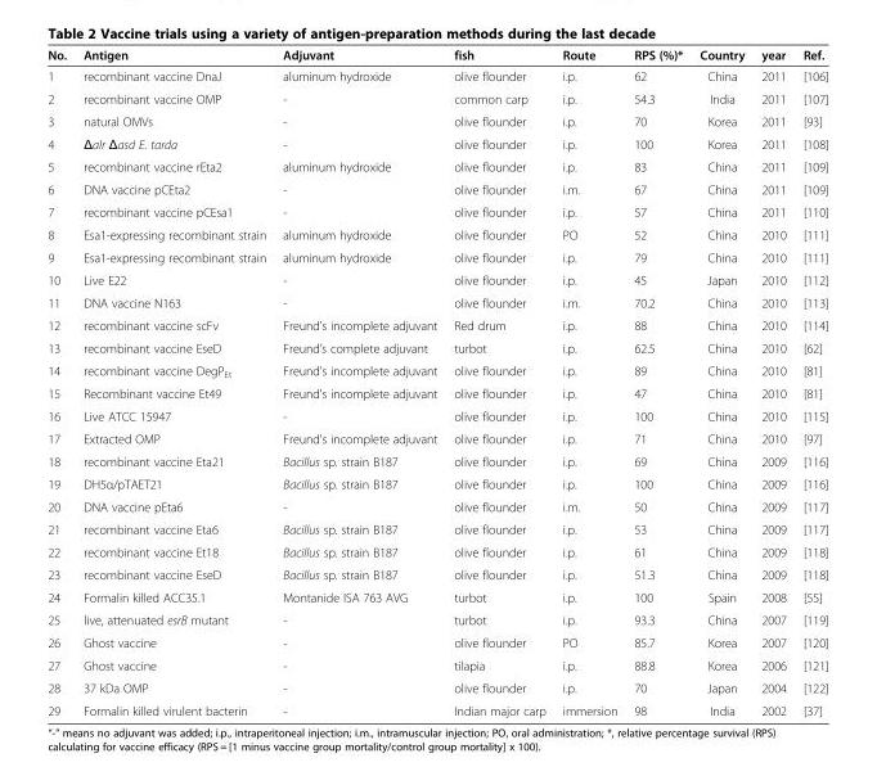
<table><thead><tr><td>No.</td><td>Antigen</td><td>Adjuvant</td><td>fish</td><td>Route</td><td>RPS (%)*</td><td>Country</td><td>year</td><td>Ref.</td></tr></thead><tbody><tr><td>1</td><td>recombinant vaccine DnaJ</td><td>aluminum hydroxide</td><td>olive flounder</td><td>i.p.</td><td>62</td><td>China</td><td>2011</td><td>[106]</td></tr><tr><td>2</td><td>recombinant vaccine OMP</td><td>-</td><td>common carp</td><td>i.p.</td><td>54.3</td><td>India</td><td>2011</td><td>[107]</td></tr><tr><td>3</td><td>natural OMVs</td><td>-</td><td>olive flounder</td><td>i.p.</td><td>70</td><td>Korea</td><td>2011</td><td>[93]</td></tr><tr><td>4</td><td>Δalr Δasd E. tarda</td><td>-</td><td>olive flounder</td><td>i.p.</td><td>100</td><td>Korea</td><td>2011</td><td>[108]</td></tr><tr><td>5</td><td>recombinant vaccine rEta2</td><td>aluminum hydroxide</td><td>olive flounder</td><td>i.p.</td><td>83</td><td>China</td><td>2011</td><td>[109]</td></tr><tr><td>6</td><td>DNA vaccine pCEta2</td><td>-</td><td>olive flounder</td><td>i.m.</td><td>67</td><td>China</td><td>2011</td><td>[109]</td></tr><tr><td>7</td><td>recombinant vaccine pCEsa1</td><td>-</td><td>olive flounder</td><td>i.p.</td><td>57</td><td>China</td><td>2011</td><td>[110]</td></tr><tr><td>8</td><td>Esa1-expressing recombinant strain</td><td>aluminum hydroxide</td><td>olive flounder</td><td>PO</td><td>52</td><td>China</td><td>2010</td><td>[111]</td></tr><tr><td>9</td><td>Esa1-expressing recombinant strain</td><td>aluminum hydroxide</td><td>olive flounder</td><td>i.p.</td><td>79</td><td>China</td><td>2010</td><td>[111]</td></tr><tr><td>10</td><td>Live E22</td><td>-</td><td>olive flounder</td><td>i.p.</td><td>45</td><td>Japan</td><td>2010</td><td>[112]</td></tr><tr><td>11</td><td>DNA vaccine N163</td><td>-</td><td>olive flounder</td><td>i.m.</td><td>70.2</td><td>China</td><td>2010</td><td>[113]</td></tr><tr><td>12</td><td>recombinant vaccine scFv</td><td>Freund&#x27;s incomplete adjuvant</td><td>Red drum</td><td>i.p.</td><td>88</td><td>China</td><td>2010</td><td>[114]</td></tr><tr><td>13</td><td>recombinant vaccine EseD</td><td>Freund’s complete adjuvant</td><td>turbot</td><td>i.p.</td><td>62.5</td><td>China</td><td>2010</td><td>[62]</td></tr><tr><td>14</td><td>recombinant vaccine DegP<sub>Et</sub></td><td>Freund&#x27;s incomplete adjuvant</td><td>olive flounder</td><td>i.p.</td><td>89</td><td>China</td><td>2010</td><td>[81]</td></tr><tr><td>15</td><td>Recombinant vaccine Et49</td><td>Freund&#x27;s incomplete adjuvant</td><td>olive flounder</td><td>i.p.</td><td>47</td><td>China</td><td>2010</td><td>[81]</td></tr><tr><td>16</td><td>Live ATCC 15947</td><td>-</td><td>olive flounder</td><td>i.p.</td><td>100</td><td>China</td><td>2010</td><td>[115]</td></tr><tr><td>17</td><td>Extracted OMP</td><td>Freund&#x27;s incomplete adjuvant</td><td>olive flounder</td><td>i.p.</td><td>71</td><td>China</td><td>2010</td><td>[97]</td></tr><tr><td>18</td><td>recombinant vaccine Eta21</td><td>Bacillus sp. strain B187</td><td>olive flounder</td><td>i.p.</td><td>69</td><td>China</td><td>2009</td><td>[116]</td></tr><tr><td>19</td><td>DH5α/pTAET21</td><td>Bacillus sp. strain B187</td><td>olive flounder</td><td>i.p.</td><td>100</td><td>China</td><td>2009</td><td>[116]</td></tr><tr><td>20</td><td>DNA vaccine pEta6</td><td>-</td><td>olive flounder</td><td>i.m.</td><td>50</td><td>China</td><td>2009</td><td>[117]</td></tr><tr><td>21</td><td>recombinant vaccine Eta6</td><td>Bacillus sp. strain B187</td><td>olive flounder</td><td>i.p.</td><td>53</td><td>China</td><td>2009</td><td>[117]</td></tr><tr><td>22</td><td>recombinant vaccine Et18</td><td>Bacillus sp. strain B187</td><td>olive flounder</td><td>i.p.</td><td>61</td><td>China</td><td>2009</td><td>[118]</td></tr><tr><td>23</td><td>recombinant vaccine EseD</td><td>Bacillus sp. strain B187</td><td>olive flounder</td><td>i.p.</td><td>51.3</td><td>China</td><td>2009</td><td>[118]</td></tr><tr><td>24</td><td>Formalin killed ACC35.1</td><td>Montanide ISA 763 AVG</td><td>turbot</td><td>i.p.</td><td>100</td><td>Spain</td><td>2008</td><td>[55]</td></tr><tr><td>25</td><td>live, attenuated esrB mutant</td><td>-</td><td>turbot</td><td>i.p.</td><td>93.3</td><td>China</td><td>2007</td><td>[119]</td></tr><tr><td>26</td><td>Ghost vaccine</td><td>-</td><td>olive flounder</td><td>PO</td><td>85.7</td><td>Korea</td><td>2007</td><td>[120]</td></tr><tr><td>27</td><td>Ghost vaccine</td><td>-</td><td>tilapia</td><td>i.p.</td><td>88.8</td><td>Korea</td><td>2006</td><td>[121]</td></tr><tr><td>28</td><td>37 kDa OMP</td><td>-</td><td>olive flounder</td><td>i.p.</td><td>70</td><td>Japan</td><td>2004</td><td>[122]</td></tr><tr><td>29</td><td>Formalin killed virulent bacterin</td><td>-</td><td>Indian major carp</td><td>immersion</td><td>98</td><td>India</td><td>2002</td><td>[37]</td></tr></tbody></table>